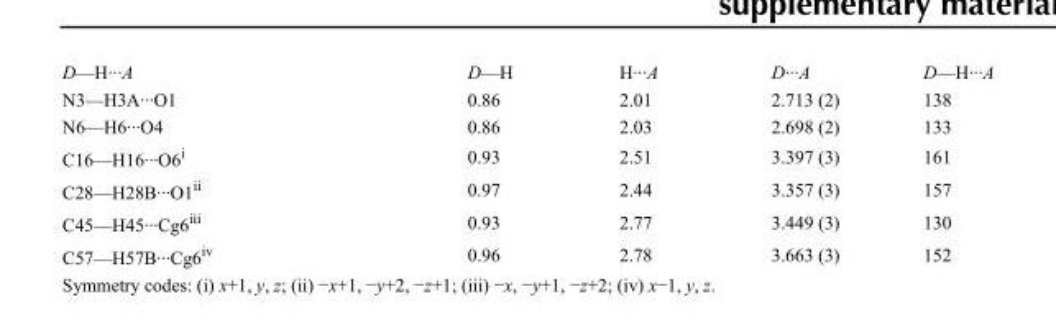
<table><tbody><tr><td>D—H···A</td><td>D—H</td><td>H···A</td><td>D···A</td><td>D—H···A</td></tr><tr><td>N3—H3A···O1</td><td>0.86</td><td>2.01</td><td>2.713 (2)</td><td>138</td></tr><tr><td>N6—H6···O4</td><td>0.86</td><td>2.03</td><td>2.698 (2)</td><td>133</td></tr><tr><td>C16—H16···O6<sup>i</sup></td><td>0.93</td><td>2.51</td><td>3.397 (3)</td><td>161</td></tr><tr><td>C28—H28B···O1<sup>ii</sup></td><td>0.97</td><td>2.44</td><td>3.357 (3)</td><td>157</td></tr><tr><td>C45—H45···Cg6<sup>iii</sup></td><td>0.93</td><td>2.77</td><td>3.449 (3)</td><td>130</td></tr><tr><td>C57—H57B···Cg6<sup>iv</sup></td><td>0.96</td><td>2.78</td><td>3.663 (3)</td><td>152</td></tr></tbody></table>